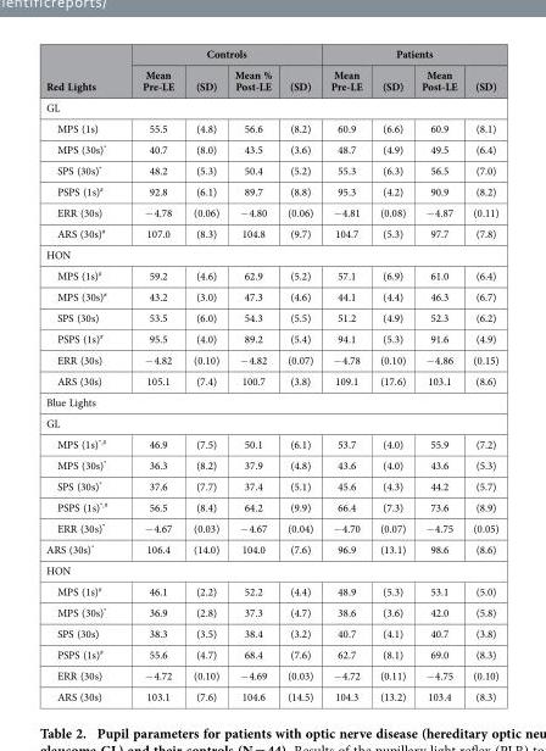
<table><thead><tr><td rowspan="2">Red Lights</td><td colspan="4">Controls</td><td colspan="4">Patients</td></tr><tr><td>Mean Pre-LE</td><td>(SD)</td><td>Mean % Post-LE</td><td>(SD)</td><td>Mean Pre-LE</td><td>(SD)</td><td>Mean Post-LE</td><td>(SD)</td></tr></thead><tbody><tr><td colspan="9">GL</td></tr><tr><td>MPS (1s)</td><td>55.5</td><td>(4.8)</td><td>56.6</td><td>(8.2)</td><td>60.9</td><td>(6.6)</td><td>60.9</td><td>(8.1)</td></tr><tr><td>MPS (30s)*</td><td>40.7</td><td>(8.0)</td><td>43.5</td><td>(3.6)</td><td>48.7</td><td>(4.9)</td><td>49.5</td><td>(6.4)</td></tr><tr><td>SPS (30s)*</td><td>48.2</td><td>(5.3)</td><td>50.4</td><td>(5.2)</td><td>55.3</td><td>(6.3)</td><td>56.5</td><td>(7.0)</td></tr><tr><td>PSPS (1s)#</td><td>92.8</td><td>(6.1)</td><td>89.7</td><td>(8.8)</td><td>95.3</td><td>(4.2)</td><td>90.9</td><td>(8.2)</td></tr><tr><td>ERR (30s)</td><td>− 4.78</td><td>(0.06)</td><td>− 4.80</td><td>(0.06)</td><td>− 4.81</td><td>(0.08)</td><td>− 4.87</td><td>(0.11)</td></tr><tr><td>ARS (30s)#</td><td>107.0</td><td>(8.3)</td><td>104.8</td><td>(9.7)</td><td>104.7</td><td>(5.3)</td><td>97.7</td><td>(7.8)</td></tr><tr><td colspan="9">HON</td></tr><tr><td>MPS (1s)#</td><td>59.2</td><td>(4.6)</td><td>62.9</td><td>(5.2)</td><td>57.1</td><td>(6.9)</td><td>61.0</td><td>(6.4)</td></tr><tr><td>MPS (30s)#</td><td>43.2</td><td>(3.0)</td><td>47.3</td><td>(4.6)</td><td>44.1</td><td>(4.4)</td><td>46.3</td><td>(6.7)</td></tr><tr><td>SPS (30s)</td><td>53.5</td><td>(6.0)</td><td>54.3</td><td>(5.5)</td><td>51.2</td><td>(4.9)</td><td>52.3</td><td>(6.2)</td></tr><tr><td>PSPS (1s)#</td><td>95.5</td><td>(4.0)</td><td>89.2</td><td>(5.4)</td><td>94.1</td><td>(5.3)</td><td>91.6</td><td>(4.9)</td></tr><tr><td>ERR (30s)</td><td>− 4.82</td><td>(0.10)</td><td>− 4.82</td><td>(0.07)</td><td>− 4.78</td><td>(0.10)</td><td>− 4.86</td><td>(0.15)</td></tr><tr><td>ARS (30s)</td><td>105.1</td><td>(7.4)</td><td>100.7</td><td>(3.8)</td><td>109.1</td><td>(17.6)</td><td>103.1</td><td>(8.6)</td></tr><tr><td colspan="9">Blue Lights</td></tr><tr><td colspan="9">GL</td></tr><tr><td>MPS (1s)*,#</td><td>46.9</td><td>(7.5)</td><td>50.1</td><td>(6.1)</td><td>53.7</td><td>(4.0)</td><td>55.9</td><td>(7.2)</td></tr><tr><td>MPS (30s)*</td><td>36.3</td><td>(8.2)</td><td>37.9</td><td>(4.8)</td><td>43.6</td><td>(4.0)</td><td>43.6</td><td>(5.3)</td></tr><tr><td>SPS (30s)*</td><td>37.6</td><td>(7.7)</td><td>37.4</td><td>(5.1)</td><td>45.6</td><td>(4.3)</td><td>44.2</td><td>(5.7)</td></tr><tr><td>PSPS (1s)*,#</td><td>56.5</td><td>(8.4)</td><td>64.2</td><td>(9.9)</td><td>66.4</td><td>(7.3)</td><td>73.6</td><td>(8.9)</td></tr><tr><td>ERR (30s)*</td><td>− 4.67</td><td>(0.03)</td><td>− 4.67</td><td>(0.04)</td><td>− 4.70</td><td>(0.07)</td><td>− 4.75</td><td>(0.05)</td></tr><tr><td>ARS (30s)*</td><td>106.4</td><td>(14.0)</td><td>104.0</td><td>(7.6)</td><td>96.9</td><td>(13.1)</td><td>98.6</td><td>(8.6)</td></tr><tr><td colspan="9">HON</td></tr><tr><td>MPS (1s)#</td><td>46.1</td><td>(2.2)</td><td>52.2</td><td>(4.4)</td><td>48.9</td><td>(5.3)</td><td>53.1</td><td>(5.0)</td></tr><tr><td>MPS (30s)*</td><td>36.9</td><td>(2.8)</td><td>37.3</td><td>(4.7)</td><td>38.6</td><td>(3.6)</td><td>42.0</td><td>(5.8)</td></tr><tr><td>SPS (30s)</td><td>38.3</td><td>(3.5)</td><td>38.4</td><td>(3.2)</td><td>40.7</td><td>(4.1)</td><td>40.7</td><td>(3.8)</td></tr><tr><td>PSPS (1s)#</td><td>55.6</td><td>(4.7)</td><td>68.4</td><td>(7.6)</td><td>62.7</td><td>(8.1)</td><td>69.0</td><td>(8.3)</td></tr><tr><td>ERR (30s)</td><td>− 4.72</td><td>(0.10)</td><td>− 4.69</td><td>(0.03)</td><td>− 4.72</td><td>(0.11)</td><td>− 4.75</td><td>(0.10)</td></tr><tr><td>ARS (30s)</td><td>103.1</td><td>(7.6)</td><td>104.6</td><td>(14.5)</td><td>104.3</td><td>(13.2)</td><td>103.4</td><td>(8.3)</td></tr></tbody></table>